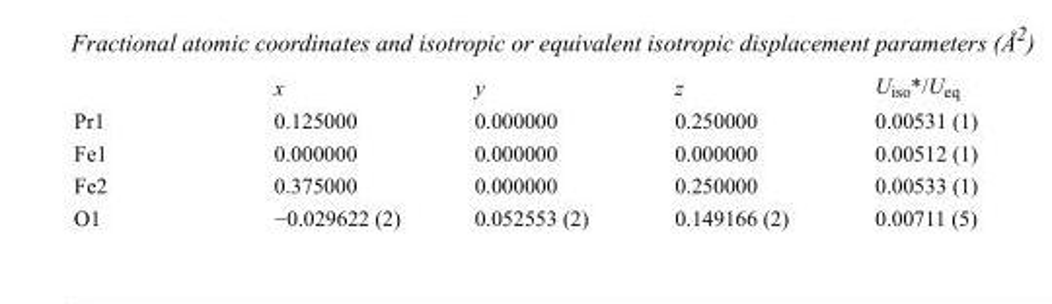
<table><thead><tr><td></td><td>x</td><td>y</td><td>z</td><td>U<sub>iso</sub>*/U<sub>eq</sub></td></tr></thead><tbody><tr><td>Pr1</td><td>0.125000</td><td>0.000000</td><td>0.250000</td><td>0.00531 (1)</td></tr><tr><td>Fe1</td><td>0.000000</td><td>0.000000</td><td>0.000000</td><td>0.00512 (1)</td></tr><tr><td>Fe2</td><td>0.375000</td><td>0.000000</td><td>0.250000</td><td>0.00533 (1)</td></tr><tr><td>O1</td><td>−0.029622 (2)</td><td>0.052553 (2)</td><td>0.149166 (2)</td><td>0.00711 (5)</td></tr></tbody></table>